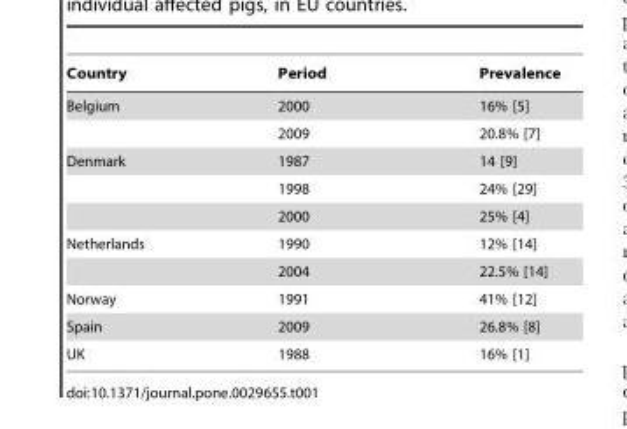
<table><thead><tr><td>Country</td><td>Period</td><td>Prevalence</td></tr></thead><tbody><tr><td rowspan="2">Belgium</td><td>2000</td><td>16% [5]</td></tr><tr><td>2009</td><td>20.8% [7]</td></tr><tr><td rowspan="3">Denmark</td><td>1987</td><td>14 [9]</td></tr><tr><td>1998</td><td>24% [29]</td></tr><tr><td>2000</td><td>25% [4]</td></tr><tr><td rowspan="2">Netherlands</td><td>1990</td><td>12% [14]</td></tr><tr><td>2004</td><td>22.5% [14]</td></tr><tr><td>Norway</td><td>1991</td><td>41% [12]</td></tr><tr><td>Spain</td><td>2009</td><td>26.8% [8]</td></tr><tr><td>UK</td><td>1988</td><td>16% [1]</td></tr></tbody></table>